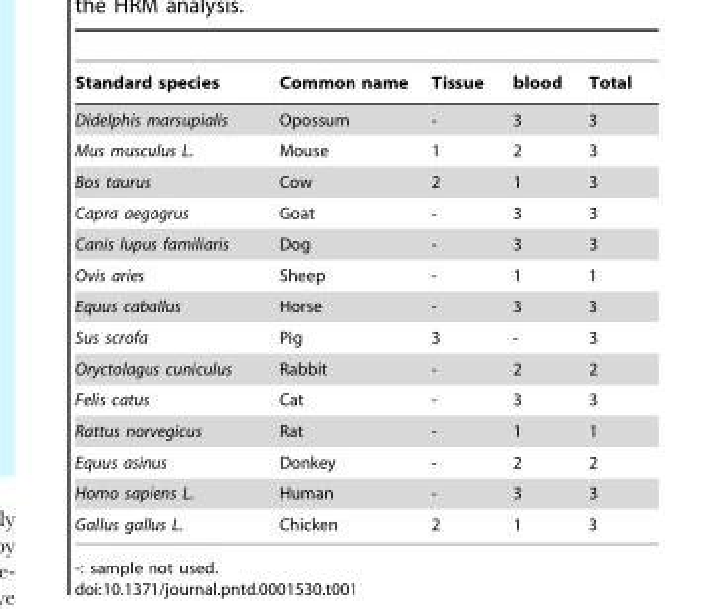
<table><thead><tr><td>Standard species</td><td>Common name</td><td>Tissue</td><td>blood</td><td>Total</td></tr></thead><tbody><tr><td>Didelphis marsupialis</td><td>Opossum</td><td>-</td><td>3</td><td>3</td></tr><tr><td>Mus musculus L.</td><td>Mouse</td><td>1</td><td>2</td><td>3</td></tr><tr><td>Bos taurus</td><td>Cow</td><td>2</td><td>1</td><td>3</td></tr><tr><td>Capra aegagrus</td><td>Goat</td><td>-</td><td>3</td><td>3</td></tr><tr><td>Canis lupus familiaris</td><td>Dog</td><td>-</td><td>3</td><td>3</td></tr><tr><td>Ovis aries</td><td>Sheep</td><td>-</td><td>1</td><td>1</td></tr><tr><td>Equus caballus</td><td>Horse</td><td>-</td><td>3</td><td>3</td></tr><tr><td>Sus scrofa</td><td>Pig</td><td>3</td><td>-</td><td>3</td></tr><tr><td>Oryctolagus cuniculus</td><td>Rabbit</td><td>-</td><td>2</td><td>2</td></tr><tr><td>Felis catus</td><td>Cat</td><td>-</td><td>3</td><td>3</td></tr><tr><td>Rattus norvegicus</td><td>Rat</td><td>-</td><td>1</td><td>1</td></tr><tr><td>Equus asinus</td><td>Donkey</td><td>-</td><td>2</td><td>2</td></tr><tr><td>Homo sapiens L.</td><td>Human</td><td>-</td><td>3</td><td>3</td></tr><tr><td>Gallus gallus L.</td><td>Chicken</td><td>2</td><td>1</td><td>3</td></tr></tbody></table>